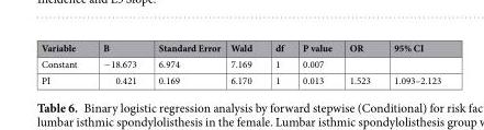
<table><thead><tr><td>Variable</td><td>B</td><td>Standard Error</td><td>Wald</td><td>df</td><td>P value</td><td>OR</td><td>95% CI</td></tr></thead><tbody><tr><td>Constant</td><td>−18.673</td><td>6.974</td><td>7.169</td><td>1</td><td>0.007</td><td></td><td></td></tr><tr><td>PI</td><td>0.421</td><td>0.169</td><td>6.170</td><td>1</td><td>0.013</td><td>1.523</td><td>1.093–2.123</td></tr></tbody></table>